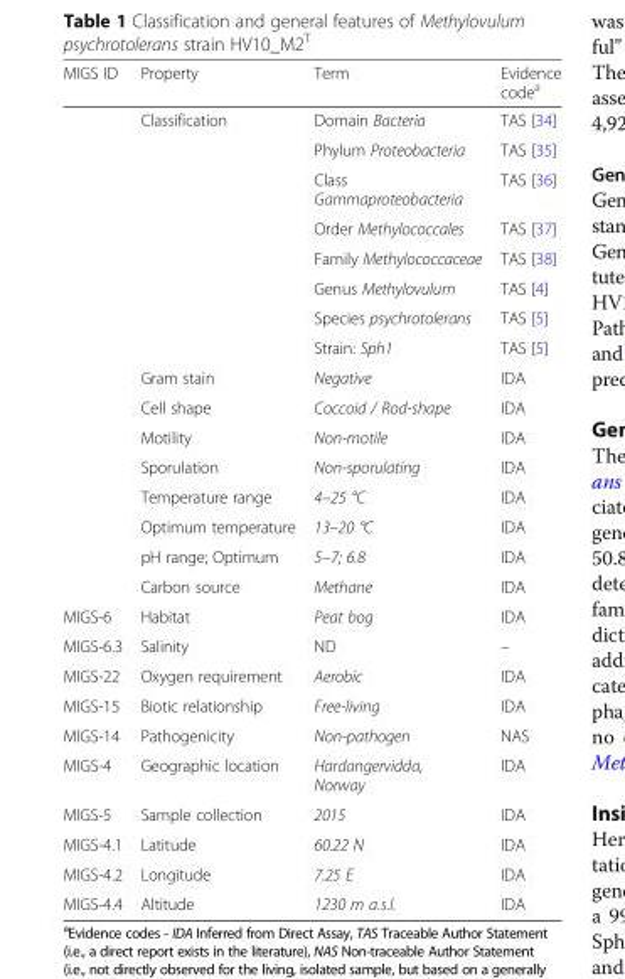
<table><thead><tr><td>MIGS ID</td><td>Property</td><td>Term</td><td>Evidence code<sup>a</sup></td></tr></thead><tbody><tr><td></td><td>Classification</td><td>Domain Bacteria</td><td>TAS [34]</td></tr><tr><td></td><td></td><td>Phylum Proteobacteria</td><td>TAS [35]</td></tr><tr><td></td><td></td><td>Class Gammaproteobacteria</td><td>TAS [36]</td></tr><tr><td></td><td></td><td>Order Methylococcales</td><td>TAS [37]</td></tr><tr><td></td><td></td><td>Family Methylococcaceae</td><td>TAS [38]</td></tr><tr><td></td><td></td><td>Genus Methylovulum</td><td>TAS [4]</td></tr><tr><td></td><td></td><td>Species psychrotolerans</td><td>TAS [5]</td></tr><tr><td></td><td></td><td>Strain: Sph1</td><td>TAS [5]</td></tr><tr><td></td><td>Gram stain</td><td>Negative</td><td>IDA</td></tr><tr><td></td><td>Cell shape</td><td>Coccoid / Rod-shape</td><td>IDA</td></tr><tr><td></td><td>Motility</td><td>Non-motile</td><td>IDA</td></tr><tr><td></td><td>Sporulation</td><td>Non-sporulating</td><td>IDA</td></tr><tr><td></td><td>Temperature range</td><td>4–25 °C</td><td>IDA</td></tr><tr><td></td><td>Optimum temperature</td><td>13–20 °C</td><td>IDA</td></tr><tr><td></td><td>pH range; Optimum</td><td>5–7; 6.8</td><td>IDA</td></tr><tr><td></td><td>Carbon source</td><td>Methane</td><td>IDA</td></tr><tr><td>MIGS-6</td><td>Habitat</td><td>Peat bog</td><td>IDA</td></tr><tr><td>MIGS-6.3</td><td>Salinity</td><td>ND</td><td>–</td></tr><tr><td>MIGS-22</td><td>Oxygen requirement</td><td>Aerobic</td><td>IDA</td></tr><tr><td>MIGS-15</td><td>Biotic relationship</td><td>Free-living</td><td>IDA</td></tr><tr><td>MIGS-14</td><td>Pathogenicity</td><td>Non-pathogen</td><td>NAS</td></tr><tr><td>MIGS-4</td><td>Geographic location</td><td>Hardangervidda, Norway</td><td>IDA</td></tr><tr><td>MIGS-5</td><td>Sample collection</td><td>2015</td><td>IDA</td></tr><tr><td>MIGS-4.1</td><td>Latitude</td><td>60.22 N</td><td>IDA</td></tr><tr><td>MIGS-4.2</td><td>Longitude</td><td>7.25 E</td><td>IDA</td></tr><tr><td>MIGS-4.4</td><td>Altitude</td><td>1230 m a.s.l.</td><td>IDA</td></tr></tbody></table>